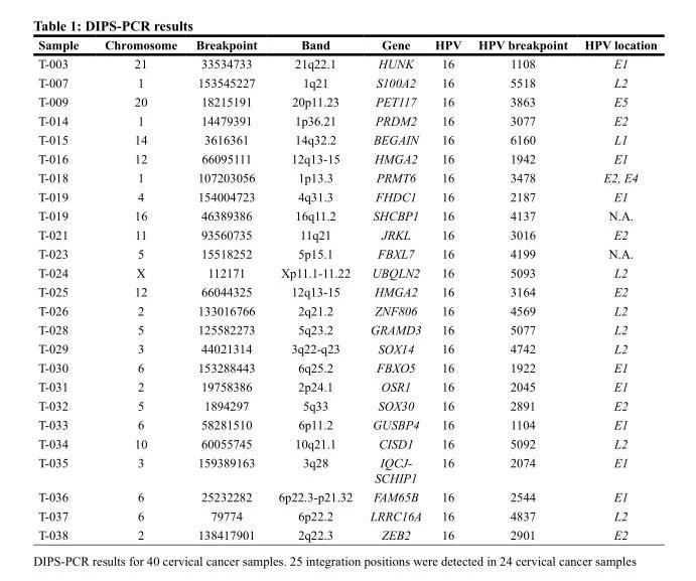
<table><thead><tr><td>Sample</td><td>Chromosome</td><td>Breakpoint</td><td>Band</td><td>Gene</td><td>HPV</td><td>HPV breakpoint</td><td>HPV location</td></tr></thead><tbody><tr><td>T-003</td><td>21</td><td>33534733</td><td>21q22.1</td><td>HUNK</td><td>16</td><td>1108</td><td>E1</td></tr><tr><td>T-007</td><td>1</td><td>153545227</td><td>1q21</td><td>S100A2</td><td>16</td><td>5518</td><td>L2</td></tr><tr><td>T-009</td><td>20</td><td>18215191</td><td>20p11.23</td><td>PET117</td><td>16</td><td>3863</td><td>E5</td></tr><tr><td>T-014</td><td>1</td><td>14479391</td><td>1p36.21</td><td>PRDM2</td><td>16</td><td>3077</td><td>E2</td></tr><tr><td>T-015</td><td>14</td><td>3616361</td><td>14q32.2</td><td>BEGAIN</td><td>16</td><td>6160</td><td>L1</td></tr><tr><td>T-016</td><td>12</td><td>66095111</td><td>12q13-15</td><td>HMGA2</td><td>16</td><td>1942</td><td>E1</td></tr><tr><td>T-018</td><td>1</td><td>107203056</td><td>1p13.3</td><td>PRMT6</td><td>16</td><td>3478</td><td>E2, E4</td></tr><tr><td>T-019</td><td>4</td><td>154004723</td><td>4q31.3</td><td>FHDC1</td><td>16</td><td>2187</td><td>E1</td></tr><tr><td>T-019</td><td>16</td><td>46389386</td><td>16q11.2</td><td>SHCBP1</td><td>16</td><td>4137</td><td>N.A.</td></tr><tr><td>T-021</td><td>11</td><td>93560735</td><td>11q21</td><td>JRKL</td><td>16</td><td>3016</td><td>E2</td></tr><tr><td>T-023</td><td>5</td><td>15518252</td><td>5p15.1</td><td>FBXL7</td><td>16</td><td>4199</td><td>N.A.</td></tr><tr><td>T-024</td><td>X</td><td>112171</td><td>Xp11.1-11.22</td><td>UBQLN2</td><td>16</td><td>5093</td><td>L2</td></tr><tr><td>T-025</td><td>12</td><td>66044325</td><td>12q13-15</td><td>HMGA2</td><td>16</td><td>3164</td><td>E2</td></tr><tr><td>T-026</td><td>2</td><td>133016766</td><td>2q21.2</td><td>ZNF806</td><td>16</td><td>4569</td><td>L2</td></tr><tr><td>T-028</td><td>5</td><td>125582273</td><td>5q23.2</td><td>GRAMD3</td><td>16</td><td>5077</td><td>L2</td></tr><tr><td>T-029</td><td>3</td><td>44021314</td><td>3q22-q23</td><td>SOX14</td><td>16</td><td>4742</td><td>L2</td></tr><tr><td>T-030</td><td>6</td><td>153288443</td><td>6q25.2</td><td>FBXO5</td><td>16</td><td>1922</td><td>E1</td></tr><tr><td>T-031</td><td>2</td><td>19758386</td><td>2p24.1</td><td>OSR1</td><td>16</td><td>2045</td><td>E1</td></tr><tr><td>T-032</td><td>5</td><td>1894297</td><td>5q33</td><td>SOX30</td><td>16</td><td>2891</td><td>E2</td></tr><tr><td>T-033</td><td>6</td><td>58281510</td><td>6p11.2</td><td>GUSBP4</td><td>16</td><td>1104</td><td>E1</td></tr><tr><td>T-034</td><td>10</td><td>60055745</td><td>10q21.1</td><td>CISD1</td><td>16</td><td>5092</td><td>L2</td></tr><tr><td>T-035</td><td>3</td><td>159389163</td><td>3q28</td><td>IQCJ- SCHIP1</td><td>16</td><td>2074</td><td>E1</td></tr><tr><td>T-036</td><td>6</td><td>25232282</td><td>6p22.3-p21.32</td><td>FAM65B</td><td>16</td><td>2544</td><td>E1</td></tr><tr><td>T-037</td><td>6</td><td>79774</td><td>6p22.2</td><td>LRRC16A</td><td>16</td><td>4837</td><td>L2</td></tr><tr><td>T-038</td><td>2</td><td>138417901</td><td>2q22.3</td><td>ZEB2</td><td>16</td><td>2901</td><td>E2</td></tr></tbody></table>